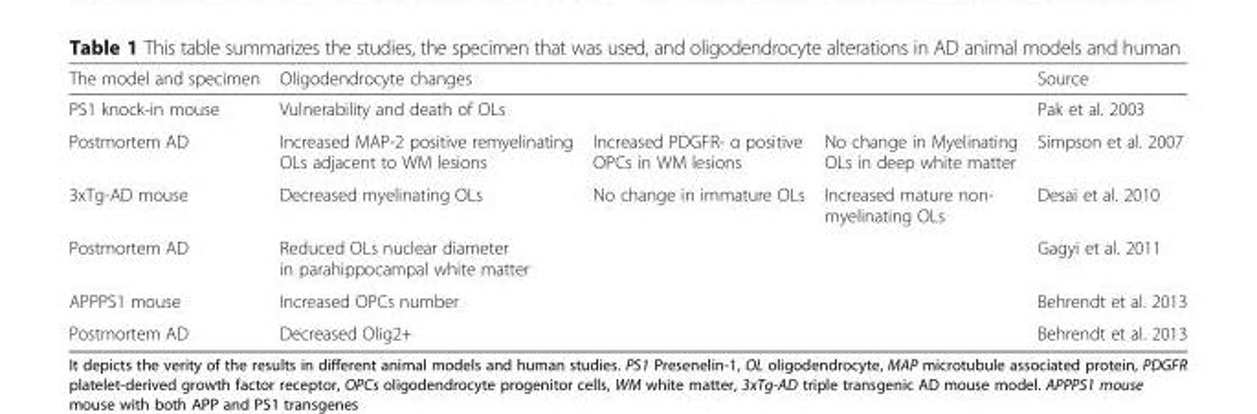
<table><thead><tr><td rowspan="3">The model and specimen PS1 knock-in mouse Postmortem AD</td><td rowspan="2" colspan="3">Oligodendrocyte changes Vulnerability and death of OLs</td><td rowspan="3">Source Pak et al. 2003 Simpson et al. 2007</td></tr><tr></tr><tr><td>Increased MAP-2 positive remyelinating OLs adjacent to WM lesions</td><td>Increased PDGFR- α positive OPCs in WM lesions</td><td>No change in Myelinating OLs in deep white matter</td></tr></thead><tbody><tr><td>3xTg-AD mouse</td><td>Decreased myelinating OLs</td><td>No change in immature OLs</td><td>Increased mature non- myelinating OLs</td><td>Desai et al. 2010</td></tr><tr><td>Postmortem AD</td><td colspan="3">Reduced OLs nuclear diameter in parahippocampal white matter</td><td>Gagyi et al. 2011</td></tr><tr><td>APPPS1 mouse</td><td colspan="3">Increased OPCs number</td><td>Behrendt et al. 2013</td></tr><tr><td>Postmortem AD</td><td colspan="3">Decreased Olig2+</td><td>Behrendt et al. 2013</td></tr></tbody></table>